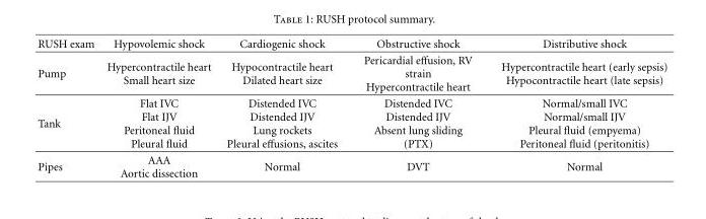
<table><thead><tr><td>RUSH exam</td><td>Hypovolemic shock</td><td>Cardiogenic shock</td><td>Obstructive shock</td><td>Distributive shock</td></tr></thead><tbody><tr><td>Pump</td><td>Hypercontractile heart Small heart size</td><td>Hypocontractile heart Dilated heart size</td><td>Pericardial effusion, RV strain Hypercontractile heart</td><td>Hypercontractile heart (early sepsis) Hypocontractile heart (late sepsis)</td></tr><tr><td>Tank</td><td>Flat IVC Flat IJV Peritoneal fluid Pleural fluid</td><td>Distended IVC Distended IJV Lung rockets Pleural effusions, ascites</td><td>Distended IVC Distended IJV Absent lung sliding (PTX)</td><td>Normal/small IVC Normal/small IJV Pleural fluid (empyema) Peritoneal fluid (peritonitis)</td></tr><tr><td>Pipes</td><td>AAA Aortic dissection</td><td>Normal</td><td>DVT</td><td>Normal</td></tr></tbody></table>